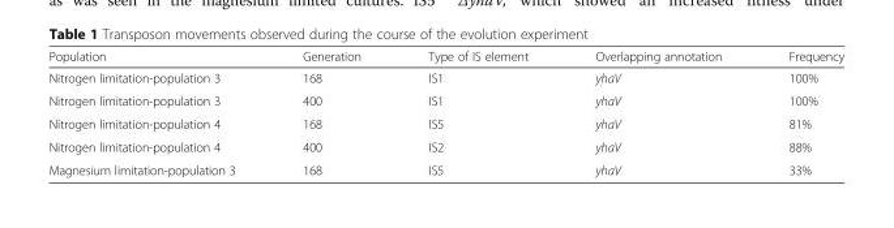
<table><thead><tr><td>Population</td><td>Generation</td><td>Type of IS element</td><td>Overlapping annotation</td><td>Frequency</td></tr></thead><tbody><tr><td>Nitrogen limitation-population 3</td><td>168</td><td>IS1</td><td>yhaV</td><td>100%</td></tr><tr><td>Nitrogen limitation-population 3</td><td>400</td><td>IS1</td><td>yhaV</td><td>100%</td></tr><tr><td>Nitrogen limitation-population 4</td><td>168</td><td>IS5</td><td>yhaV</td><td>81%</td></tr><tr><td>Nitrogen limitation-population 4</td><td>400</td><td>IS2</td><td>yhaV</td><td>88%</td></tr><tr><td>Magnesium limitation-population 3</td><td>168</td><td>IS5</td><td>yhaV</td><td>33%</td></tr></tbody></table>